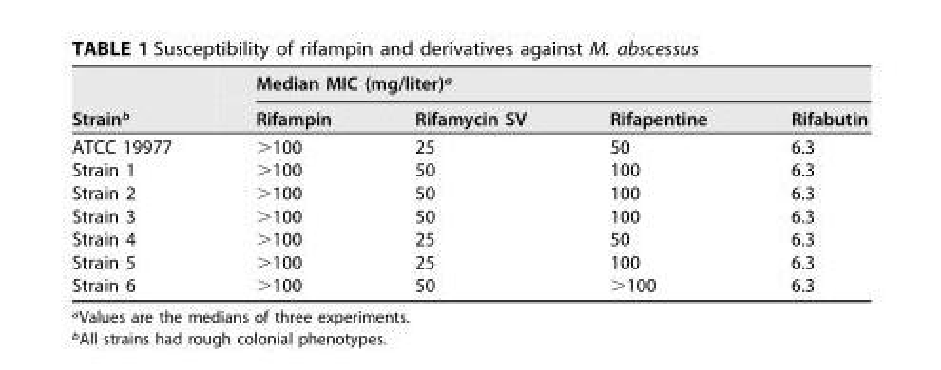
<table><thead><tr><td rowspan="2">Strain<sup>b</sup></td><td colspan="4">Median MIC (mg/liter)<sup>a</sup></td></tr><tr><td>Rifampin</td><td>Rifamycin SV</td><td>Rifapentine</td><td>Rifabutin</td></tr></thead><tbody><tr><td>ATCC 19977</td><td>&gt;100</td><td>25</td><td>50</td><td>6.3</td></tr><tr><td>Strain 1</td><td>&gt;100</td><td>50</td><td>100</td><td>6.3</td></tr><tr><td>Strain 2</td><td>&gt;100</td><td>50</td><td>100</td><td>6.3</td></tr><tr><td>Strain 3</td><td>&gt;100</td><td>50</td><td>100</td><td>6.3</td></tr><tr><td>Strain 4</td><td>&gt;100</td><td>25</td><td>50</td><td>6.3</td></tr><tr><td>Strain 5</td><td>&gt;100</td><td>25</td><td>100</td><td>6.3</td></tr><tr><td>Strain 6</td><td>&gt;100</td><td>50</td><td>&gt;100</td><td>6.3</td></tr></tbody></table>